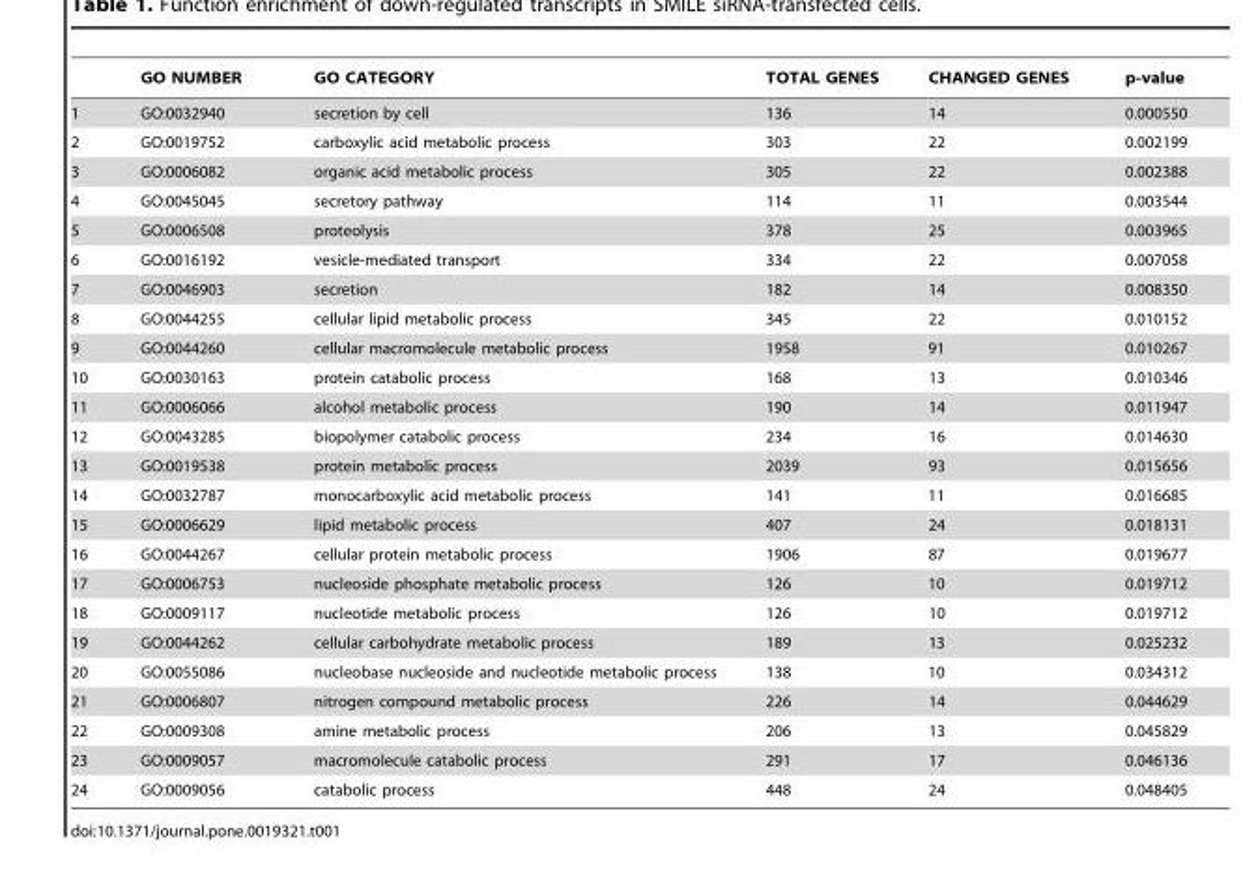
<table><thead><tr><td></td><td>GO NUMBER</td><td>GO CATEGORY</td><td>TOTAL GENES</td><td>CHANGED GENES</td><td>p-value</td></tr></thead><tbody><tr><td>1</td><td>GO:0032940</td><td>secretion by cell</td><td>136</td><td>14</td><td>0.000550</td></tr><tr><td>2</td><td>GO:0019752</td><td>carboxylic acid metabolic process</td><td>303</td><td>22</td><td>0.002199</td></tr><tr><td>3</td><td>GO:0006082</td><td>organic acid metabolic process</td><td>305</td><td>22</td><td>0.002388</td></tr><tr><td>4</td><td>GO:0045045</td><td>secretory pathway</td><td>114</td><td>11</td><td>0.003544</td></tr><tr><td>5</td><td>GO:0006508</td><td>proteolysis</td><td>378</td><td>25</td><td>0.003965</td></tr><tr><td>6</td><td>GO:0016192</td><td>vesicle-mediated transport</td><td>334</td><td>22</td><td>0.007058</td></tr><tr><td>7</td><td>GO:0046903</td><td>secretion</td><td>182</td><td>14</td><td>0.008350</td></tr><tr><td>8</td><td>GO:0044255</td><td>cellular lipid metabolic process</td><td>345</td><td>22</td><td>0.010152</td></tr><tr><td>9</td><td>GO:0044260</td><td>cellular macromolecule metabolic process</td><td>1958</td><td>91</td><td>0.010267</td></tr><tr><td>10</td><td>GO:0030163</td><td>protein catabolic process</td><td>168</td><td>13</td><td>0.010346</td></tr><tr><td>11</td><td>GO:0006066</td><td>alcohol metabolic process</td><td>190</td><td>14</td><td>0.011947</td></tr><tr><td>12</td><td>GO:0043285</td><td>biopolymer catabolic process</td><td>234</td><td>16</td><td>0.014630</td></tr><tr><td>13</td><td>GO:0019538</td><td>protein metabolic process</td><td>2039</td><td>93</td><td>0.015656</td></tr><tr><td>14</td><td>GO:0032787</td><td>monocarboxylic acid metabolic process</td><td>141</td><td>11</td><td>0.016685</td></tr><tr><td>15</td><td>GO:0006629</td><td>lipid metabolic process</td><td>407</td><td>24</td><td>0.018131</td></tr><tr><td>16</td><td>GO:0044267</td><td>cellular protein metabolic process</td><td>1906</td><td>87</td><td>0.019677</td></tr><tr><td>17</td><td>GO:0006753</td><td>nucleoside phosphate metabolic process</td><td>126</td><td>10</td><td>0.019712</td></tr><tr><td>18</td><td>GO:0009117</td><td>nucleotide metabolic process</td><td>126</td><td>10</td><td>0.019712</td></tr><tr><td>19</td><td>GO:0044262</td><td>cellular carbohydrate metabolic process</td><td>189</td><td>13</td><td>0.025232</td></tr><tr><td>20</td><td>GO:0055086</td><td>nucleobase nucleoside and nucleotide metabolic process</td><td>138</td><td>10</td><td>0.034312</td></tr><tr><td>21</td><td>GO:0006807</td><td>nitrogen compound metabolic process</td><td>226</td><td>14</td><td>0.044629</td></tr><tr><td>22</td><td>GO:0009308</td><td>amine metabolic process</td><td>206</td><td>13</td><td>0.045829</td></tr><tr><td>23</td><td>GO:0009057</td><td>macromolecule catabolic process</td><td>291</td><td>17</td><td>0.046136</td></tr><tr><td>24</td><td>GO:0009056</td><td>catabolic process</td><td>448</td><td>24</td><td>0.048405</td></tr></tbody></table>